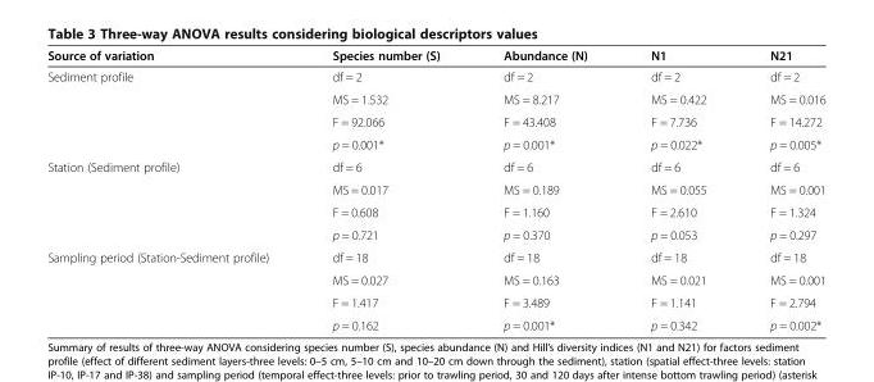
<table><thead><tr><td>Source of variation</td><td>Species number (S)</td><td>Abundance (N)</td><td>N1</td><td>N21</td></tr></thead><tbody><tr><td rowspan="4">Sediment profile</td><td>df = 2</td><td>df = 2</td><td>df = 2</td><td>df = 2</td></tr><tr><td>MS = 1.532</td><td>MS = 8.217</td><td>MS = 0.422</td><td>MS = 0.016</td></tr><tr><td>F = 92.066</td><td>F = 43.408</td><td>F = 7.736</td><td>F = 14.272</td></tr><tr><td>p = 0.001*</td><td>p = 0.001*</td><td>p = 0.022*</td><td>p = 0.005*</td></tr><tr><td rowspan="4">Station (Sediment profile)</td><td>df = 6</td><td>df = 6</td><td>df = 6</td><td>df = 6</td></tr><tr><td>MS = 0.017</td><td>MS = 0.189</td><td>MS = 0.055</td><td>MS = 0.001</td></tr><tr><td>F = 0.608</td><td>F = 1.160</td><td>F = 2.610</td><td>F = 1.324</td></tr><tr><td>p = 0.721</td><td>p = 0.370</td><td>p = 0.053</td><td>p = 0.297</td></tr><tr><td rowspan="4">Sampling period (Station-Sediment profile)</td><td>df = 18</td><td>df = 18</td><td>df = 18</td><td>df = 18</td></tr><tr><td>MS = 0.027</td><td>MS = 0.163</td><td>MS = 0.021</td><td>MS = 0.001</td></tr><tr><td>F = 1.417</td><td>F = 3.489</td><td>F = 1.141</td><td>F = 2.794</td></tr><tr><td>p = 0.162</td><td>p = 0.001*</td><td>p = 0.342</td><td>p = 0.002*</td></tr></tbody></table>